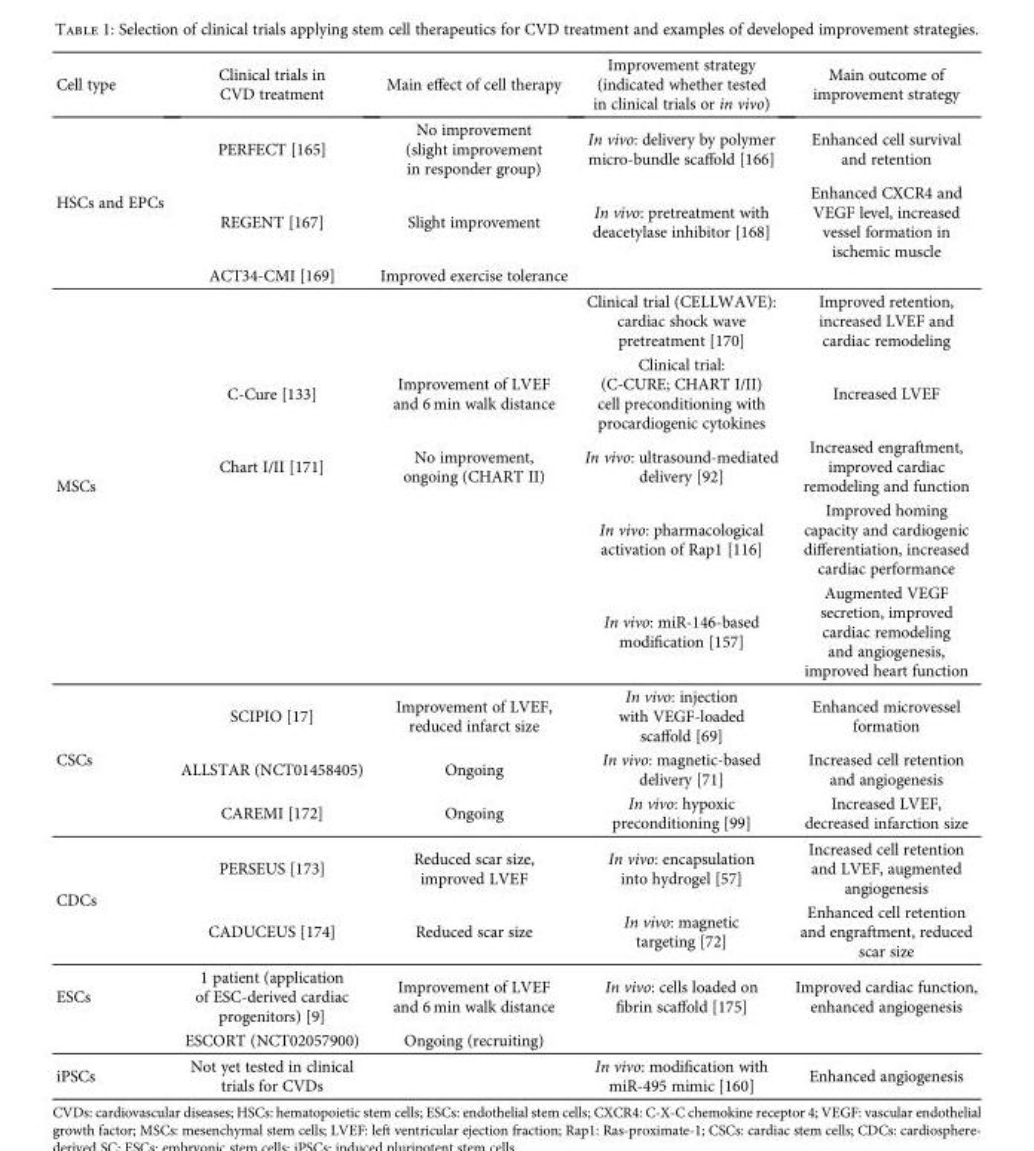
<table><thead><tr><td>Cell type</td><td>Clinical trials in CVD treatment</td><td>Main effect of cell therapy</td><td>Improvement strategy (indicated whether tested in clinical trials or in vivo)</td><td>Main outcome of improvement strategy</td></tr></thead><tbody><tr><td rowspan="3">HSCs and EPCs</td><td>PERFECT [165]</td><td>No improvement (slight improvement in responder group)</td><td>In vivo: delivery by polymer micro-bundle scaffold [166]</td><td>Enhanced cell survival and retention</td></tr><tr><td>REGENT [167]</td><td>Slight improvement</td><td>In vivo: pretreatment with deacetylase inhibitor [168]</td><td>Enhanced CXCR4 and VEGF level, increased vessel formation in ischemic muscle</td></tr><tr><td>ACT34-CMI [169]</td><td>Improved exercise tolerance</td><td></td><td></td></tr><tr><td rowspan="5">MSCs</td><td></td><td></td><td>Clinical trial (CELLWAVE): cardiac shock wave pretreatment [170]</td><td>Improved retention, increased LVEF and cardiac remodeling</td></tr><tr><td>C-Cure [133]</td><td>Improvement of LVEF and 6 min walk distance</td><td>Clinical trial: (C-CURE; CHART I/II) cell preconditioning with procardiogenic cytokines</td><td>Increased LVEF</td></tr><tr><td>Chart I/II [171]</td><td>No improvement, ongoing (CHART II)</td><td>In vivo: ultrasound-mediated delivery [92]</td><td>Increased engraftment, improved cardiac remodeling and function</td></tr><tr><td></td><td></td><td>In vivo: pharmacological activation of Rap1 [116]</td><td>Improved homing capacity and cardiogenic differentiation, increased cardiac performance</td></tr><tr><td></td><td></td><td>In vivo: miR-146-based modification [157]</td><td>Augmented VEGF secretion, improved cardiac remodeling and angiogenesis, improved heart function</td></tr><tr><td rowspan="3">CSCs</td><td>SCIPIO [17]</td><td>Improvement of LVEF, reduced infarct size</td><td>In vivo: injection with VEGF-loaded scaffold [69]</td><td>Enhanced microvessel formation</td></tr><tr><td>ALLSTAR (NCT01458405)</td><td>Ongoing</td><td>In vivo: magnetic-based delivery [71]</td><td>Increased cell retention and angiogenesis</td></tr><tr><td>CAREMI [172]</td><td>Ongoing</td><td>In vivo: hypoxic preconditioning [99]</td><td>Increased LVEF, decreased infarction size</td></tr><tr><td rowspan="2">CDCs</td><td>PERSEUS [173]</td><td>Reduced scar size, improved LVEF</td><td>In vivo: encapsulation into hydrogel [57]</td><td>Increased cell retention and LVEF, augmented angiogenesis</td></tr><tr><td>CADUCEUS [174]</td><td>Reduced scar size</td><td>In vivo: magnetic targeting [72]</td><td>Enhanced cell retention and engraftment, reduced scar size</td></tr><tr><td rowspan="2">ESCs</td><td>1 patient (application of ESC-derived cardiac progenitors) [9]</td><td>Improvement of LVEF and 6 min walk distance</td><td>In vivo: cells loaded on fibrin scaffold [175]</td><td>Improved cardiac function, enhanced angiogenesis</td></tr><tr><td>ESCORT (NCT02057900)</td><td>Ongoing (recruiting)</td><td></td><td></td></tr><tr><td>iPSCs</td><td>Not yet tested in clinical trials for CVDs</td><td></td><td>In vivo: modification with miR-495 mimic [160]</td><td>Enhanced angiogenesis</td></tr></tbody></table>